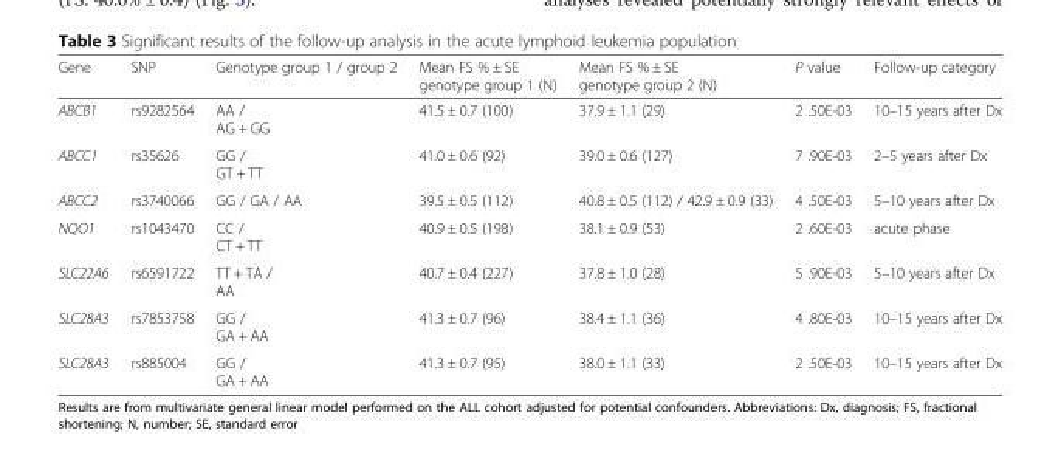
<table><thead><tr><td>Gene</td><td>SNP</td><td>Genotype group 1 / group 2</td><td>Mean FS % ± SE genotype group 1 (N)</td><td>Mean FS % ± SE genotype group 2 (N)</td><td>P value</td><td>Follow-up category</td></tr></thead><tbody><tr><td>ABCB1</td><td>rs9282564</td><td>AA / AG + GG</td><td>41.5 ± 0.7 (100)</td><td>37.9 ± 1.1 (29)</td><td>2 .50E-03</td><td>10–15 years after Dx</td></tr><tr><td>ABCC1</td><td>rs35626</td><td>GG / GT + TT</td><td>41.0 ± 0.6 (92)</td><td>39.0 ± 0.6 (127)</td><td>7 .90E-03</td><td>2–5 years after Dx</td></tr><tr><td>ABCC2</td><td>rs3740066</td><td>GG / GA / AA</td><td>39.5 ± 0.5 (112)</td><td>40.8 ± 0.5 (112) / 42.9 ± 0.9 (33)</td><td>4 .50E-03</td><td>5–10 years after Dx</td></tr><tr><td>NQO1</td><td>rs1043470</td><td>CC / CT + TT</td><td>40.9 ± 0.5 (198)</td><td>38.1 ± 0.9 (53)</td><td>2 .60E-03</td><td>acute phase</td></tr><tr><td>SLC22A6</td><td>rs6591722</td><td>TT + TA / AA</td><td>40.7 ± 0.4 (227)</td><td>37.8 ± 1.0 (28)</td><td>5 .90E-03</td><td>5–10 years after Dx</td></tr><tr><td>SLC28A3</td><td>rs7853758</td><td>GG / GA + AA</td><td>41.3 ± 0.7 (96)</td><td>38.4 ± 1.1 (36)</td><td>4 .80E-03</td><td>10–15 years after Dx</td></tr><tr><td>SLC28A3</td><td>rs885004</td><td>GG / GA + AA</td><td>41.3 ± 0.7 (95)</td><td>38.0 ± 1.1 (33)</td><td>2 .50E-03</td><td>10–15 years after Dx</td></tr></tbody></table>